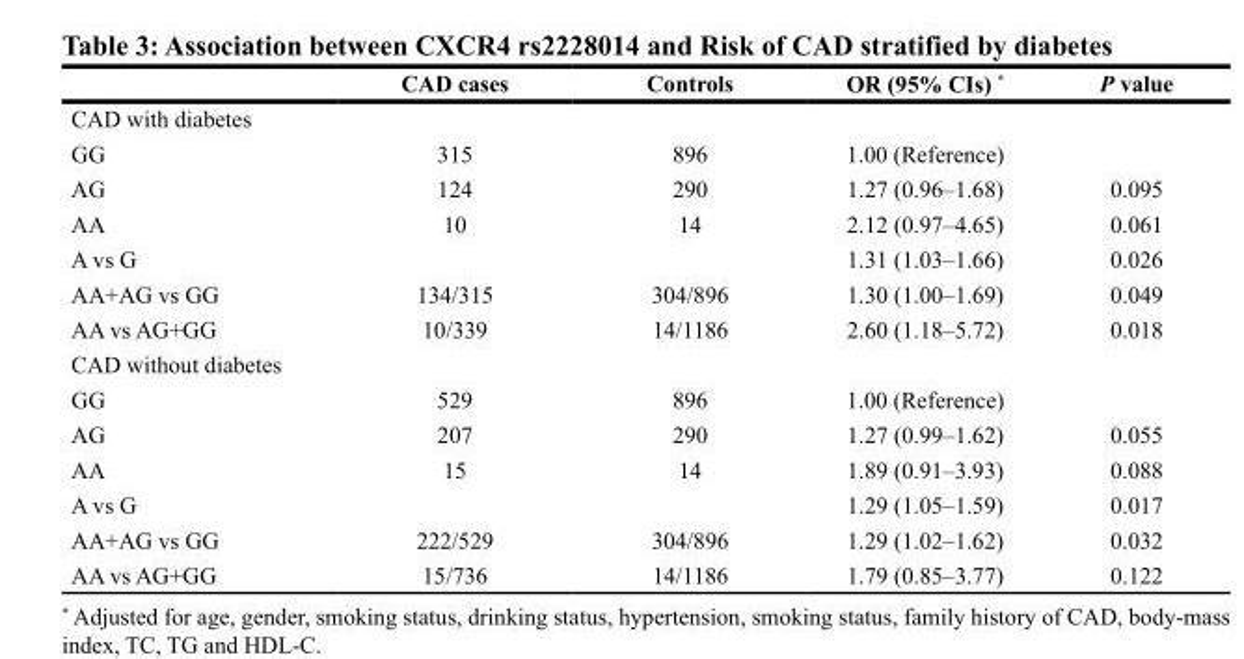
<table><thead><tr><td></td><td>CAD cases</td><td>Controls</td><td>OR (95% CIs) *</td><td>P value</td></tr></thead><tbody><tr><td colspan="5">CAD with diabetes</td></tr><tr><td>GG</td><td>315</td><td>896</td><td>1.00 (Reference)</td><td></td></tr><tr><td>AG</td><td>124</td><td>290</td><td>1.27 (0.96–1.68)</td><td>0.095</td></tr><tr><td>AA</td><td>10</td><td>14</td><td>2.12 (0.97–4.65)</td><td>0.061</td></tr><tr><td>A vs G</td><td></td><td></td><td>1.31 (1.03–1.66)</td><td>0.026</td></tr><tr><td>AA+AG vs GG</td><td>134/315</td><td>304/896</td><td>1.30 (1.00–1.69)</td><td>0.049</td></tr><tr><td>AA vs AG+GG</td><td>10/339</td><td>14/1186</td><td>2.60 (1.18–5.72)</td><td>0.018</td></tr><tr><td colspan="5">CAD without diabetes</td></tr><tr><td>GG</td><td>529</td><td>896</td><td>1.00 (Reference)</td><td></td></tr><tr><td>AG</td><td>207</td><td>290</td><td>1.27 (0.99–1.62)</td><td>0.055</td></tr><tr><td>AA</td><td>15</td><td>14</td><td>1.89 (0.91–3.93)</td><td>0.088</td></tr><tr><td>A vs G</td><td></td><td></td><td>1.29 (1.05–1.59)</td><td>0.017</td></tr><tr><td>AA+AG vs GG</td><td>222/529</td><td>304/896</td><td>1.29 (1.02–1.62)</td><td>0.032</td></tr><tr><td>AA vs AG+GG</td><td>15/736</td><td>14/1186</td><td>1.79 (0.85–3.77)</td><td>0.122</td></tr></tbody></table>